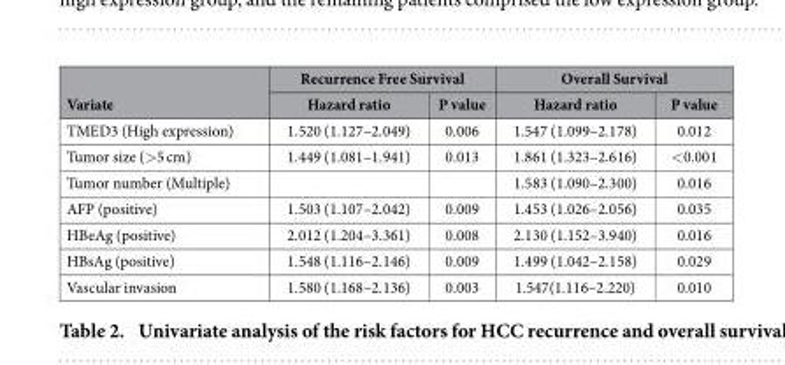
<table><thead><tr><td rowspan="2">Variate</td><td colspan="2">Recurrence Free Survival</td><td colspan="2">Overall Survival</td></tr><tr><td>Hazard ratio</td><td>P value</td><td>Hazard ratio</td><td>P value</td></tr></thead><tbody><tr><td>TMED3 (High expression)</td><td>1.520 (1.127–2.049)</td><td>0.006</td><td>1.547 (1.099–2.178)</td><td>0.012</td></tr><tr><td>Tumor size (&gt; 5 cm)</td><td>1.449 (1.081–1.941)</td><td>0.013</td><td>1.861 (1.323–2.616)</td><td>&lt; 0.001</td></tr><tr><td>Tumor number (Multiple)</td><td></td><td></td><td>1.583 (1.090–2.300)</td><td>0.016</td></tr><tr><td>AFP (positive)</td><td>1.503 (1.107–2.042)</td><td>0.009</td><td>1.453 (1.026–2.056)</td><td>0.035</td></tr><tr><td>HBeAg (positive)</td><td>2.012 (1.204–3.361)</td><td>0.008</td><td>2.130 (1.152–3.940)</td><td>0.016</td></tr><tr><td>HBsAg (positive)</td><td>1.548 (1.116–2.146)</td><td>0.009</td><td>1.499 (1.042–2.158)</td><td>0.029</td></tr><tr><td>Vascular invasion</td><td>1.580 (1.168–2.136)</td><td>0.003</td><td>1.547(1.116–2.220)</td><td>0.010</td></tr></tbody></table>